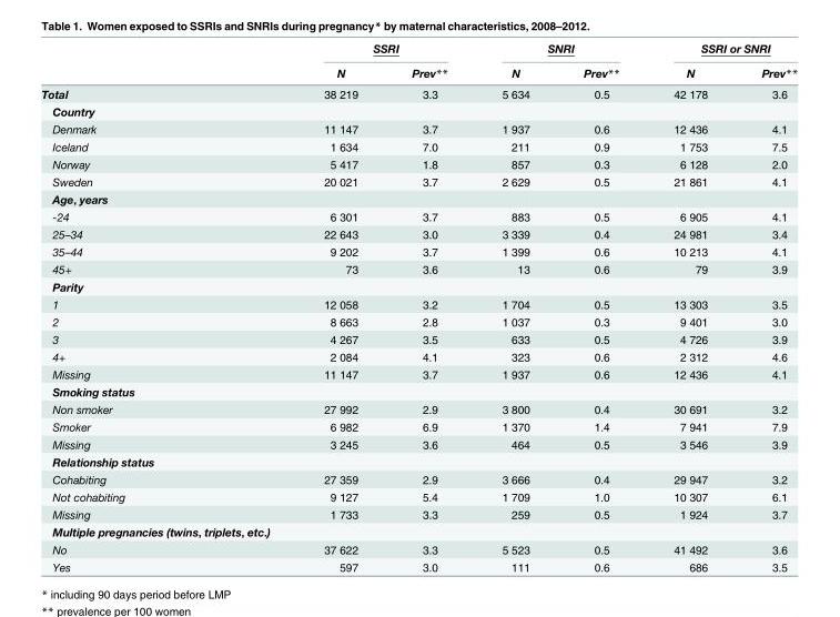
<table><thead><tr><td rowspan="2"></td><td colspan="2">SSRI</td><td colspan="2">SNRI</td><td colspan="2">SSRI or SNRI</td></tr><tr><td>N</td><td>Prev**</td><td>N</td><td>Prev**</td><td>N</td><td>Prev**</td></tr></thead><tbody><tr><td>Total</td><td>38 219</td><td>3.3</td><td>5 634</td><td>0.5</td><td>42 178</td><td>3.6</td></tr><tr><td colspan="7">Country</td></tr><tr><td>Denmark</td><td>11 147</td><td>3.7</td><td>1 937</td><td>0.6</td><td>12 436</td><td>4.1</td></tr><tr><td>Iceland</td><td>1 634</td><td>7.0</td><td>211</td><td>0.9</td><td>1 753</td><td>7.5</td></tr><tr><td>Norway</td><td>5 417</td><td>1.8</td><td>857</td><td>0.3</td><td>6 128</td><td>2.0</td></tr><tr><td>Sweden</td><td>20 021</td><td>3.7</td><td>2 629</td><td>0.5</td><td>21 861</td><td>4.1</td></tr><tr><td colspan="7">Age, years</td></tr><tr><td>-24</td><td>6 301</td><td>3.7</td><td>883</td><td>0.5</td><td>6 905</td><td>4.1</td></tr><tr><td>25–34</td><td>22 643</td><td>3.0</td><td>3 339</td><td>0.4</td><td>24 981</td><td>3.4</td></tr><tr><td>35–44</td><td>9 202</td><td>3.7</td><td>1 399</td><td>0.6</td><td>10 213</td><td>4.1</td></tr><tr><td>45+</td><td>73</td><td>3.6</td><td>13</td><td>0.6</td><td>79</td><td>3.9</td></tr><tr><td colspan="7">Parity</td></tr><tr><td>1</td><td>12 058</td><td>3.2</td><td>1 704</td><td>0.5</td><td>13 303</td><td>3.5</td></tr><tr><td>2</td><td>8 663</td><td>2.8</td><td>1 037</td><td>0.3</td><td>9 401</td><td>3.0</td></tr><tr><td>3</td><td>4 267</td><td>3.5</td><td>633</td><td>0.5</td><td>4 726</td><td>3.9</td></tr><tr><td>4+</td><td>2 084</td><td>4.1</td><td>323</td><td>0.6</td><td>2 312</td><td>4.6</td></tr><tr><td>Missing</td><td>11 147</td><td>3.7</td><td>1 937</td><td>0.6</td><td>12 436</td><td>4.1</td></tr><tr><td colspan="7">Smoking status</td></tr><tr><td>Non smoker</td><td>27 992</td><td>2.9</td><td>3 800</td><td>0.4</td><td>30 691</td><td>3.2</td></tr><tr><td>Smoker</td><td>6 982</td><td>6.9</td><td>1 370</td><td>1.4</td><td>7 941</td><td>7.9</td></tr><tr><td>Missing</td><td>3 245</td><td>3.6</td><td>464</td><td>0.5</td><td>3 546</td><td>3.9</td></tr><tr><td colspan="7">Relationship status</td></tr><tr><td>Cohabiting</td><td>27 359</td><td>2.9</td><td>3 666</td><td>0.4</td><td>29 947</td><td>3.2</td></tr><tr><td>Not cohabiting</td><td>9 127</td><td>5.4</td><td>1 709</td><td>1.0</td><td>10 307</td><td>6.1</td></tr><tr><td>Missing</td><td>1 733</td><td>3.3</td><td>259</td><td>0.5</td><td>1 924</td><td>3.7</td></tr><tr><td colspan="7">Multiple pregnancies (twins, triplets, etc.)</td></tr><tr><td>No</td><td>37 622</td><td>3.3</td><td>5 523</td><td>0.5</td><td>41 492</td><td>3.6</td></tr><tr><td>Yes</td><td>597</td><td>3.0</td><td>111</td><td>0.6</td><td>686</td><td>3.5</td></tr></tbody></table>